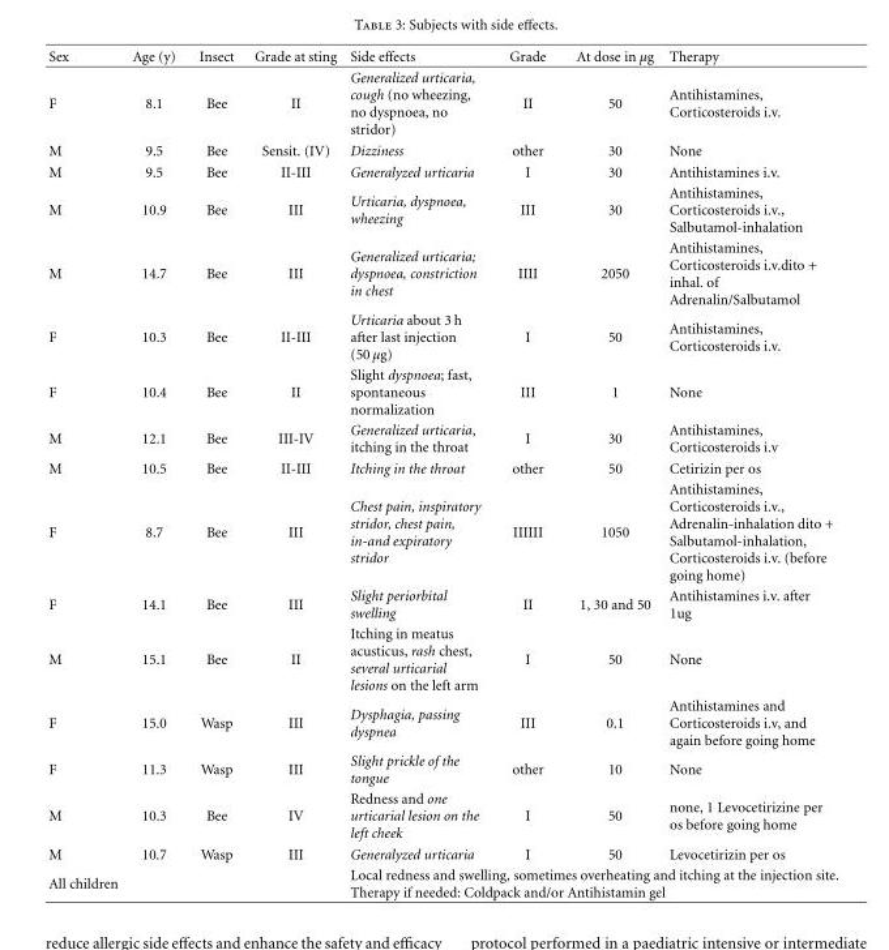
<table><thead><tr><td>Sex</td><td>Age (y)</td><td>Insect</td><td>Grade at sting</td><td>Side effects</td><td>Grade</td><td>At dose in µg</td><td>Therapy</td></tr></thead><tbody><tr><td>F</td><td>8.1</td><td>Bee</td><td>II</td><td>Generalized urticaria, cough (no wheezing, no dyspnoea, no stridor)</td><td>II</td><td>50</td><td>Antihistamines, Corticosteroids i.v.</td></tr><tr><td>M</td><td>9.5</td><td>Bee</td><td>Sensit. (IV)</td><td>Dizziness</td><td>other</td><td>30</td><td>None</td></tr><tr><td>M</td><td>9.5</td><td>Bee</td><td>II-III</td><td>Generalyzed urticaria</td><td>I</td><td>30</td><td>Antihistamines i.v.</td></tr><tr><td>M</td><td>10.9</td><td>Bee</td><td>III</td><td>Urticaria, dyspnoea, wheezing</td><td>III</td><td>30</td><td>Antihistamines, Corticosteroids i.v., Salbutamol-inhalation</td></tr><tr><td>M</td><td>14.7</td><td>Bee</td><td>III</td><td>Generalized urticaria; dyspnoea, constriction in chest</td><td>IIII</td><td>2050</td><td>Antihistamines, Corticosteroids i.v.dito + inhal. of Adrenalin/Salbutamol</td></tr><tr><td>F</td><td>10.3</td><td>Bee</td><td>II-III</td><td>Urticaria about 3 h after last injection (50 µg)</td><td>I</td><td>50</td><td>Antihistamines, Corticosteroids i.v.</td></tr><tr><td>F</td><td>10.4</td><td>Bee</td><td>II</td><td>Slight dyspnoea; fast, spontaneous normalization</td><td>III</td><td>1</td><td>None</td></tr><tr><td>M</td><td>12.1</td><td>Bee</td><td>III-IV</td><td>Generalized urticaria, itching in the throat</td><td>I</td><td>30</td><td>Antihistamines, Corticosteroids i.v</td></tr><tr><td>M</td><td>10.5</td><td>Bee</td><td>II-III</td><td>Itching in the throat</td><td>other</td><td>50</td><td>Cetirizin per os</td></tr><tr><td>F</td><td>8.7</td><td>Bee</td><td>III</td><td>Chest pain, inspiratory stridor, chest pain, in-and expiratory stridor</td><td>IIIIII</td><td>1050</td><td>Antihistamines, Corticosteroids i.v., Adrenalin-inhalation dito + Salbutamol-inhalation, Corticosteroids i.v. (before going home)</td></tr><tr><td>F</td><td>14.1</td><td>Bee</td><td>III</td><td>Slight periorbital swelling</td><td>II</td><td>1, 30 and 50</td><td>Antihistamines i.v. after 1ug</td></tr><tr><td>M</td><td>15.1</td><td>Bee</td><td>II</td><td>Itching in meatus acusticus, rash chest, several urticarial lesions on the left arm</td><td>I</td><td>50</td><td>None</td></tr><tr><td>F</td><td>15.0</td><td>Wasp</td><td>III</td><td>Dysphagia, passing dyspnea</td><td>III</td><td>0.1</td><td>Antihistamines and Corticosteroids i.v, and again before going home</td></tr><tr><td>F</td><td>11.3</td><td>Wasp</td><td>III</td><td>Slight prickle of the tongue</td><td>other</td><td>10</td><td>None</td></tr><tr><td>M</td><td>10.3</td><td>Bee</td><td>IV</td><td>Redness and one urticarial lesion on the left cheek</td><td>I</td><td>50</td><td>none, 1 Levocetirizine per os before going home</td></tr><tr><td>M</td><td>10.7</td><td>Wasp</td><td>III</td><td>Generalyzed urticaria</td><td>I</td><td>50</td><td>Levocetirizin per os</td></tr><tr><td>All children</td><td></td><td></td><td></td><td colspan="4">Local redness and swelling, sometimes overheating and itching at the injection site. Therapy if needed: Coldpack and/or Antihistamin gel</td></tr></tbody></table>